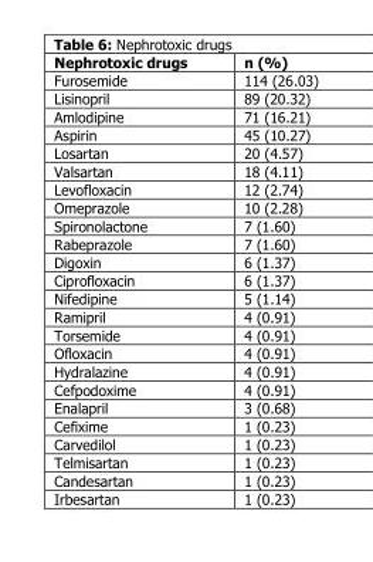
<table><thead><tr><td>Nephrotoxic drugs</td><td>n (%)</td></tr></thead><tbody><tr><td>Furosemide</td><td>114 (26.03)</td></tr><tr><td>Lisinopril</td><td>89 (20.32)</td></tr><tr><td>Amlodipine</td><td>71 (16.21)</td></tr><tr><td>Aspirin</td><td>45 (10.27)</td></tr><tr><td>Losartan</td><td>20 (4.57)</td></tr><tr><td>Valsartan</td><td>18 (4.11)</td></tr><tr><td>Levofloxacin</td><td>12 (2.74)</td></tr><tr><td>Omeprazole</td><td>10 (2.28)</td></tr><tr><td>Spironolactone</td><td>7 (1.60)</td></tr><tr><td>Rabeprazole</td><td>7 (1.60)</td></tr><tr><td>Digoxin</td><td>6 (1.37)</td></tr><tr><td>Ciprofloxacin</td><td>6 (1.37)</td></tr><tr><td>Nifedipine</td><td>5 (1.14)</td></tr><tr><td>Ramipril</td><td>4 (0.91)</td></tr><tr><td>Torsemide</td><td>4 (0.91)</td></tr><tr><td>Ofloxacin</td><td>4 (0.91)</td></tr><tr><td>Hydralazine</td><td>4 (0.91)</td></tr><tr><td>Cefpodoxime</td><td>4 (0.91)</td></tr><tr><td>Enalapril</td><td>3 (0.68)</td></tr><tr><td>Cefixime</td><td>1 (0.23)</td></tr><tr><td>Carvedilol</td><td>1 (0.23)</td></tr><tr><td>Telmisartan</td><td>1 (0.23)</td></tr><tr><td>Candesartan</td><td>1 (0.23)</td></tr><tr><td>Irbesartan</td><td>1 (0.23)</td></tr></tbody></table>